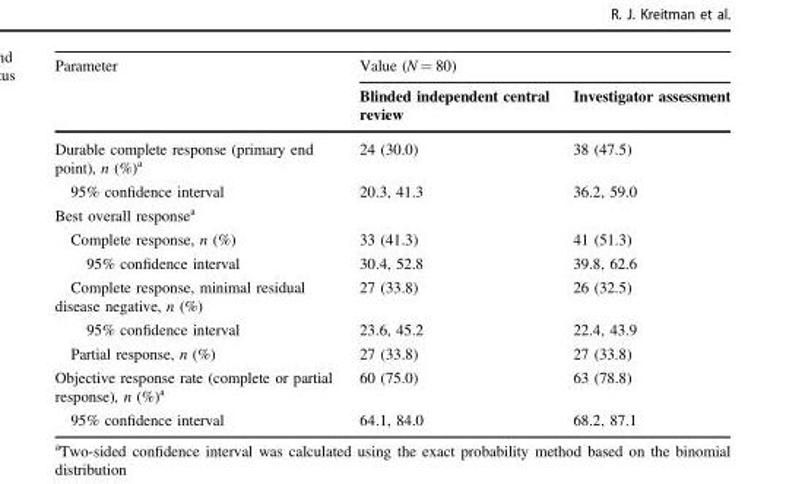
<table><thead><tr><td rowspan="2">Parameter</td><td colspan="2">Value (N = 80)</td></tr><tr><td>Blinded independent central review</td><td>Investigator assessment</td></tr></thead><tbody><tr><td>Durable complete response (primary end point), n (%)<sup>a</sup></td><td>24 (30.0)</td><td>38 (47.5)</td></tr><tr><td>95% confidence interval</td><td>20.3, 41.3</td><td>36.2, 59.0</td></tr><tr><td colspan="3">Best overall response<sup>a</sup></td></tr><tr><td>Complete response, n (%)</td><td>33 (41.3)</td><td>41 (51.3)</td></tr><tr><td>95% confidence interval</td><td>30.4, 52.8</td><td>39.8, 62.6</td></tr><tr><td>Complete response, minimal residual disease negative, n (%)</td><td>27 (33.8)</td><td>26 (32.5)</td></tr><tr><td>95% confidence interval</td><td>23.6, 45.2</td><td>22.4, 43.9</td></tr><tr><td>Partial response, n (%)</td><td>27 (33.8)</td><td>27 (33.8)</td></tr><tr><td>Objective response rate (complete or partial response), n (%)<sup>a</sup></td><td>60 (75.0)</td><td>63 (78.8)</td></tr><tr><td>95% confidence interval</td><td>64.1, 84.0</td><td>68.2, 87.1</td></tr></tbody></table>